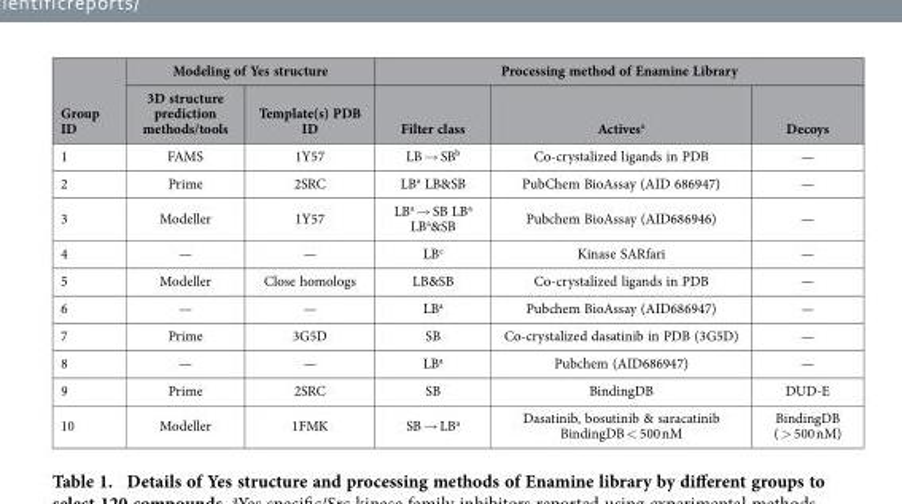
<table><thead><tr><td rowspan="2">Group ID</td><td colspan="2">Modeling of Yes structure</td><td colspan="3">Processing method of Enamine Library</td></tr><tr><td>3D structure prediction methods/tools</td><td>Template(s) PDB ID</td><td>Filter class</td><td>Actives<sup>a</sup></td><td>Decoys</td></tr></thead><tbody><tr><td>1</td><td>FAMS</td><td>1Y57</td><td>LB → SB<sup>b</sup></td><td>Co-crystalized ligands in PDB</td><td>—</td></tr><tr><td>2</td><td>Prime</td><td>2SRC</td><td>LB<sup>a</sup> LB&amp;SB</td><td>PubChem BioAssay (AID 686947)</td><td>—</td></tr><tr><td>3</td><td>Modeller</td><td>1Y57</td><td>LB<sup>a</sup> → SB LB<sup>a</sup> LB<sup>a</sup>&amp;SB</td><td>Pubchem BioAssay (AID686946)</td><td>—</td></tr><tr><td>4</td><td>—</td><td>—</td><td>LB<sup>c</sup></td><td>Kinase SARfari</td><td>—</td></tr><tr><td>5</td><td>Modeller</td><td>Close homologs</td><td>LB&amp;SB</td><td>Co-crystalized ligands in PDB</td><td>—</td></tr><tr><td>6</td><td>—</td><td>—</td><td>LB<sup>a</sup></td><td>Pubchem BioAssay (AID686947)</td><td>—</td></tr><tr><td>7</td><td>Prime</td><td>3G5D</td><td>SB</td><td>Co-crystalized dasatinib in PDB (3G5D)</td><td>—</td></tr><tr><td>8</td><td>—</td><td>—</td><td>LB<sup>a</sup></td><td>Pubchem (AID686947)</td><td>—</td></tr><tr><td>9</td><td>Prime</td><td>2SRC</td><td>SB</td><td>BindingDB</td><td>DUD-E</td></tr><tr><td>10</td><td>Modeller</td><td>1FMK</td><td>SB → LB<sup>a</sup></td><td>Dasatinib, bosutinib &amp; saracatinib BindingDB &lt; 500 nM</td><td>BindingDB ( &gt; 500 nM)</td></tr></tbody></table>